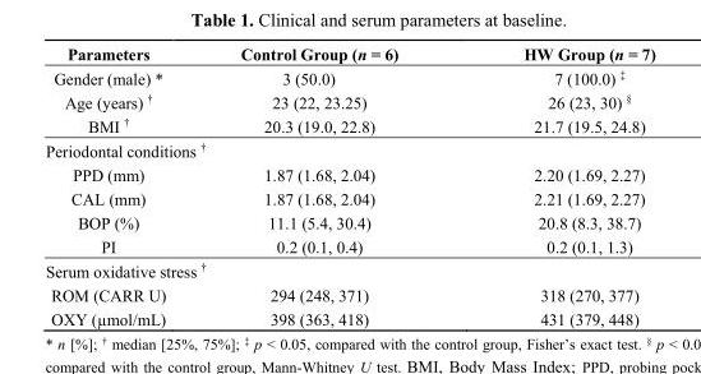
<table><thead><tr><td>Parameters</td><td>Control Group (n = 6)</td><td>HW Group (n = 7)</td></tr></thead><tbody><tr><td>Gender (male) *</td><td>3 (50.0)</td><td>7 (100.0) <sup>‡</sup></td></tr><tr><td>Age (years) <sup>†</sup></td><td>23 (22, 23.25)</td><td>26 (23, 30) <sup>§</sup></td></tr><tr><td>BMI <sup>†</sup></td><td>20.3 (19.0, 22.8)</td><td>21.7 (19.5, 24.8)</td></tr><tr><td colspan="3">Periodontal conditions <sup>†</sup></td></tr><tr><td>PPD (mm)</td><td>1.87 (1.68, 2.04)</td><td>2.20 (1.69, 2.27)</td></tr><tr><td>CAL (mm)</td><td>1.87 (1.68, 2.04)</td><td>2.21 (1.69, 2.27)</td></tr><tr><td>BOP (%)</td><td>11.1 (5.4, 30.4)</td><td>20.8 (8.3, 38.7)</td></tr><tr><td>PI</td><td>0.2 (0.1, 0.4)</td><td>0.2 (0.1, 1.3)</td></tr><tr><td colspan="3">Serum oxidative stress <sup>†</sup></td></tr><tr><td>ROM (CARR U)</td><td>294 (248, 371)</td><td>318 (270, 377)</td></tr><tr><td>OXY (µmol/mL)</td><td>398 (363, 418)</td><td>431 (379, 448)</td></tr></tbody></table>